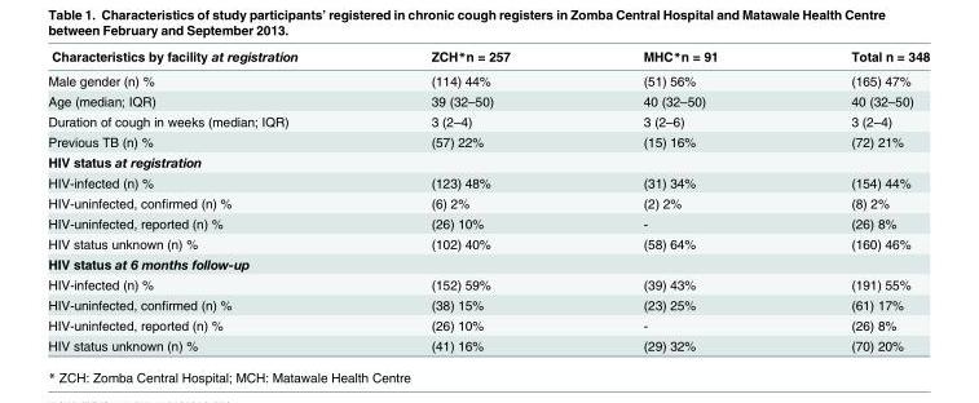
<table><thead><tr><td>Characteristics by facility at registration</td><td>ZCH*n = 257</td><td>MHC*n = 91</td><td>Total n = 348</td></tr></thead><tbody><tr><td>Male gender (n) %</td><td>(114) 44%</td><td>(51) 56%</td><td>(165) 47%</td></tr><tr><td>Age (median; IQR)</td><td>39 (32–50)</td><td>40 (32–50)</td><td>40 (32–50)</td></tr><tr><td>Duration of cough in weeks (median; IQR)</td><td>3 (2–4)</td><td>3 (2–6)</td><td>3 (2–4)</td></tr><tr><td>Previous TB (n) %</td><td>(57) 22%</td><td>(15) 16%</td><td>(72) 21%</td></tr><tr><td colspan="4">HIV status at registration</td></tr><tr><td>HIV-infected (n) %</td><td>(123) 48%</td><td>(31) 34%</td><td>(154) 44%</td></tr><tr><td>HIV-uninfected, confirmed (n) %</td><td>(6) 2%</td><td>(2) 2%</td><td>(8) 2%</td></tr><tr><td>HIV-uninfected, reported (n) %</td><td>(26) 10%</td><td>-</td><td>(26) 8%</td></tr><tr><td>HIV status unknown (n) %</td><td>(102) 40%</td><td>(58) 64%</td><td>(160) 46%</td></tr><tr><td colspan="4">HIV status at 6 months follow-up</td></tr><tr><td>HIV-infected (n) %</td><td>(152) 59%</td><td>(39) 43%</td><td>(191) 55%</td></tr><tr><td>HIV-uninfected, confirmed (n) %</td><td>(38) 15%</td><td>(23) 25%</td><td>(61) 17%</td></tr><tr><td>HIV-uninfected, reported (n) %</td><td>(26) 10%</td><td>-</td><td>(26) 8%</td></tr><tr><td>HIV status unknown (n) %</td><td>(41) 16%</td><td>(29) 32%</td><td>(70) 20%</td></tr></tbody></table>